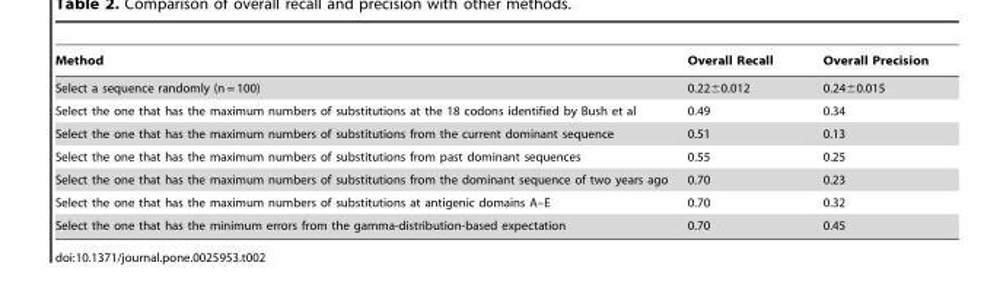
<table><thead><tr><td>Method</td><td>Overall Recall</td><td>Overall Precision</td></tr></thead><tbody><tr><td>Select a sequence randomly (n = 100)</td><td>0.22±0.012</td><td>0.24±0.015</td></tr><tr><td>Select the one that has the maximum numbers of substitutions at the 18 codons identified by Bush et al</td><td>0.49</td><td>0.34</td></tr><tr><td>Select the one that has the maximum numbers of substitutions from the current dominant sequence</td><td>0.51</td><td>0.13</td></tr><tr><td>Select the one that has the maximum numbers of substitutions from past dominant sequences</td><td>0.55</td><td>0.25</td></tr><tr><td>Select the one that has the maximum numbers of substitutions from the dominant sequence of two years ago</td><td>0.70</td><td>0.23</td></tr><tr><td>Select the one that has the maximum numbers of substitutions at antigenic domains A–E</td><td>0.70</td><td>0.32</td></tr><tr><td>Select the one that has the minimum errors from the gamma-distribution-based expectation</td><td>0.70</td><td>0.45</td></tr></tbody></table>